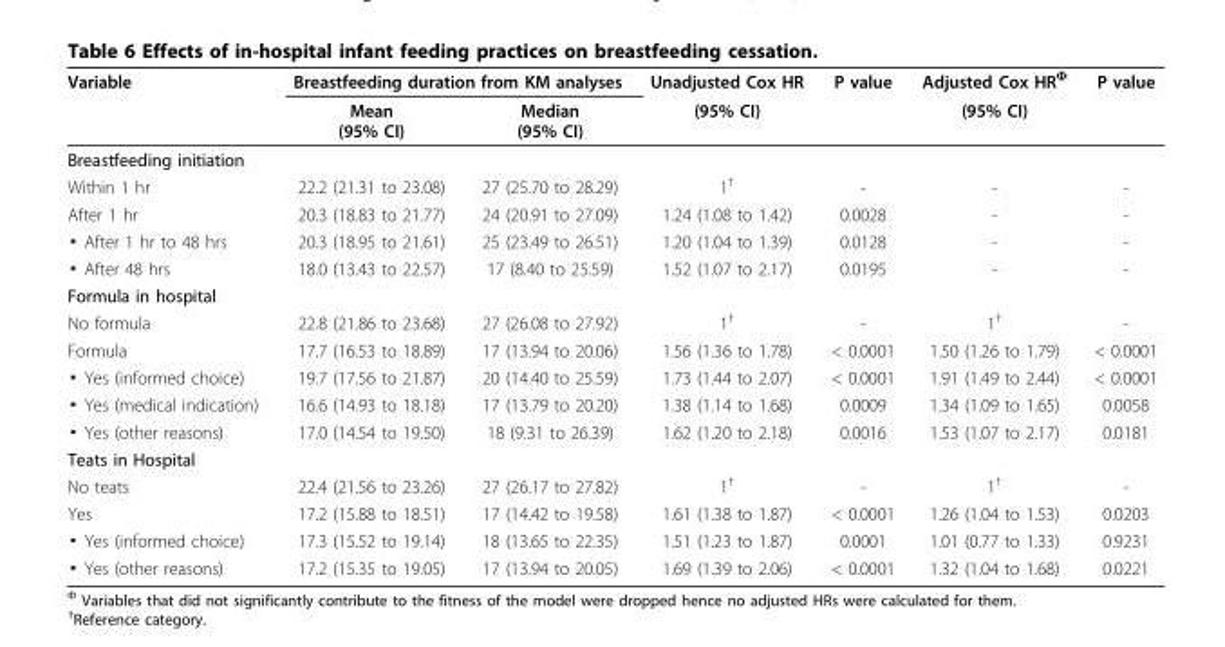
<table><thead><tr><td rowspan="2">Variable</td><td colspan="2">Breastfeeding duration from KM analyses</td><td rowspan="2">Unadjusted Cox HR (95% CI)</td><td rowspan="2">P value</td><td rowspan="2">Adjusted Cox HR<sup>Φ</sup> (95% CI)</td><td rowspan="2">P value</td></tr><tr><td>Mean (95% CI)</td><td>Median (95% CI)</td></tr></thead><tbody><tr><td colspan="7">Breastfeeding initiation</td></tr><tr><td>Within 1 hr</td><td>22.2 (21.31 to 23.08)</td><td>27 (25.70 to 28.29)</td><td>1<sup>†</sup></td><td>-</td><td>-</td><td>-</td></tr><tr><td>After 1 hr</td><td>20.3 (18.83 to 21.77)</td><td>24 (20.91 to 27.09)</td><td>1.24 (1.08 to 1.42)</td><td>0.0028</td><td>-</td><td>-</td></tr><tr><td>▪ After 1 hr to 48 hrs</td><td>20.3 (18.95 to 21.61)</td><td>25 (23.49 to 26.51)</td><td>1.20 (1.04 to 1.39)</td><td>0.0128</td><td>-</td><td>-</td></tr><tr><td>▪ After 48 hrs</td><td>18.0 (13.43 to 22.57)</td><td>17 (8.40 to 25.59)</td><td>1.52 (1.07 to 2.17)</td><td>0.0195</td><td>-</td><td>-</td></tr><tr><td colspan="7">Formula in hospital</td></tr><tr><td>No formula</td><td>22.8 (21.86 to 23.68)</td><td>27 (26.08 to 27.92)</td><td>1<sup>†</sup></td><td>-</td><td>1<sup>†</sup></td><td>-</td></tr><tr><td>Formula</td><td>17.7 (16.53 to 18.89)</td><td>17 (13.94 to 20.06)</td><td>1.56 (1.36 to 1.78)</td><td>&lt; 0.0001</td><td>1.50 (1.26 to 1.79)</td><td>&lt; 0.0001</td></tr><tr><td>▪ Yes (informed choice)</td><td>19.7 (17.56 to 21.87)</td><td>20 (14.40 to 25.59)</td><td>1.73 (1.44 to 2.07)</td><td>&lt; 0.0001</td><td>1.91 (1.49 to 2.44)</td><td>&lt; 0.0001</td></tr><tr><td>▪ Yes (medical indication)</td><td>16.6 (14.93 to 18.18)</td><td>17 (13.79 to 20.20)</td><td>1.38 (1.14 to 1.68)</td><td>0.0009</td><td>1.34 (1.09 to 1.65)</td><td>0.0058</td></tr><tr><td>▪ Yes (other reasons)</td><td>17.0 (14.54 to 19.50)</td><td>18 (9.31 to 26.39)</td><td>1.62 (1.20 to 2.18)</td><td>0.0016</td><td>1.53 (1.07 to 2.17)</td><td>0.0181</td></tr><tr><td colspan="7">Teats in Hospital</td></tr><tr><td>No teats</td><td>22.4 (21.56 to 23.26)</td><td>27 (26.17 to 27.82)</td><td>1<sup>†</sup></td><td>-</td><td>1<sup>†</sup></td><td>-</td></tr><tr><td>Yes</td><td>17.2 (15.88 to 18.51)</td><td>17 (14.42 to 19.58)</td><td>1.61 (1.38 to 1.87)</td><td>&lt; 0.0001</td><td>1.26 (1.04 to 1.53)</td><td>0.0203</td></tr><tr><td>▪ Yes (informed choice)</td><td>17.3 (15.52 to 19.14)</td><td>18 (13.65 to 22.35)</td><td>1.51 (1.23 to 1.87)</td><td>0.0001</td><td>1.01 (0.77 to 1.33)</td><td>0.9231</td></tr><tr><td>▪ Yes (other reasons)</td><td>17.2 (15.35 to 19.05)</td><td>17 (13.94 to 20.05)</td><td>1.69 (1.39 to 2.06)</td><td>&lt; 0.0001</td><td>1.32 (1.04 to 1.68)</td><td>0.0221</td></tr></tbody></table>